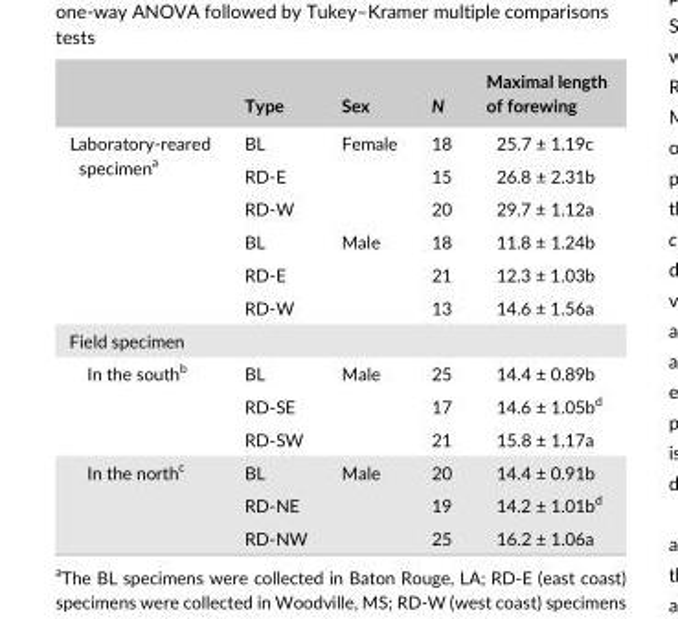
<table><thead><tr><td></td><td>Type</td><td>Sex</td><td>N</td><td>Maximal length of forewing</td></tr></thead><tbody><tr><td rowspan="6">Laboratory- reared specimen<sup>a</sup></td><td>BL</td><td rowspan="3">Female</td><td>18</td><td>25.7 ± 1.19c</td></tr><tr><td>RD- E</td><td>15</td><td>26.8 ± 2.31b</td></tr><tr><td>RD- W</td><td>20</td><td>29.7 ± 1.12a</td></tr><tr><td>BL</td><td rowspan="3">Male</td><td>18</td><td>11.8 ± 1.24b</td></tr><tr><td>RD- E</td><td>21</td><td>12.3 ± 1.03b</td></tr><tr><td>RD- W</td><td>13</td><td>14.6 ± 1.56a</td></tr><tr><td colspan="5">Field specimen</td></tr><tr><td rowspan="3">In the south<sup>b</sup></td><td>BL</td><td rowspan="3">Male</td><td>25</td><td>14.4 ± 0.89b</td></tr><tr><td>RD- SE</td><td>17</td><td>14.6 ± 1.05b<sup>d</sup></td></tr><tr><td>RD- SW</td><td>21</td><td>15.8 ± 1.17a</td></tr><tr><td rowspan="3">In the north<sup>c</sup></td><td>BL</td><td rowspan="3">Male</td><td>20</td><td>14.4 ± 0.91b</td></tr><tr><td>RD- NE</td><td>19</td><td>14.2 ± 1.01b<sup>d</sup></td></tr><tr><td>RD- NW</td><td>25</td><td>16.2 ± 1.06a</td></tr></tbody></table>